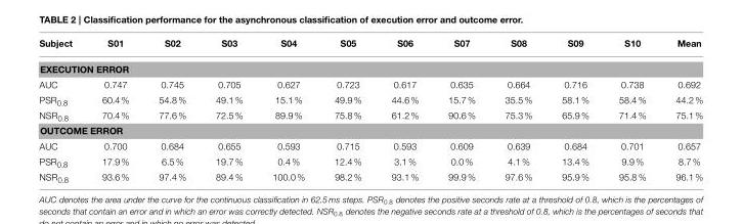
<table><thead><tr><td>Subject</td><td>S01</td><td>S02</td><td>S03</td><td>S04</td><td>S05</td><td>S06</td><td>S07</td><td>S08</td><td>S09</td><td>S10</td><td>Mean</td></tr></thead><tbody><tr><td colspan="12">EXECUTION ERROR</td></tr><tr><td>AUC</td><td>0.747</td><td>0.745</td><td>0.705</td><td>0.627</td><td>0.723</td><td>0.617</td><td>0.635</td><td>0.664</td><td>0.716</td><td>0.738</td><td>0.692</td></tr><tr><td>PSR<sub>0.8</sub></td><td>60.4%</td><td>54.8%</td><td>49.1%</td><td>15.1%</td><td>49.9%</td><td>44.6%</td><td>15.7%</td><td>35.5%</td><td>58.1%</td><td>58.4%</td><td>44.2%</td></tr><tr><td>NSR<sub>0.8</sub></td><td>70.4%</td><td>77.6%</td><td>72.5%</td><td>89.9%</td><td>75.8%</td><td>61.2%</td><td>90.6%</td><td>75.3%</td><td>65.9%</td><td>71.4%</td><td>75.1%</td></tr><tr><td colspan="12">OUTCOME ERROR</td></tr><tr><td>AUC</td><td>0.700</td><td>0.684</td><td>0.655</td><td>0.593</td><td>0.715</td><td>0.593</td><td>0.609</td><td>0.639</td><td>0.684</td><td>0.701</td><td>0.657</td></tr><tr><td>PSR<sub>0.8</sub></td><td>17.9%</td><td>6.5%</td><td>19.7%</td><td>0.4%</td><td>12.4%</td><td>3.1%</td><td>0.0%</td><td>4.1%</td><td>13.4%</td><td>9.9%</td><td>8.7%</td></tr><tr><td>NSR<sub>0.8</sub></td><td>93.6%</td><td>97.4%</td><td>89.4%</td><td>100.0%</td><td>98.2%</td><td>93.1%</td><td>99.9%</td><td>97.6%</td><td>95.9%</td><td>95.8%</td><td>96.1%</td></tr></tbody></table>